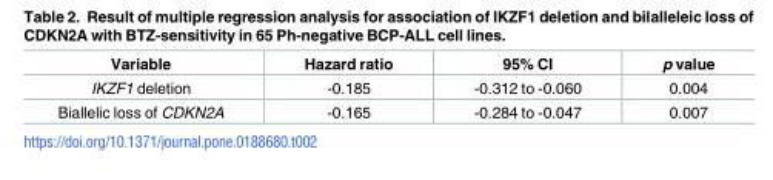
<table><thead><tr><td>Variable</td><td>Hazard ratio</td><td>95% CI</td><td>p value</td></tr></thead><tbody><tr><td>IKZF1 deletion</td><td>-0.185</td><td>-0.312 to -0.060</td><td>0.004</td></tr><tr><td>Biallelic loss of CDKN2A</td><td>-0.165</td><td>-0.284 to -0.047</td><td>0.007</td></tr></tbody></table>